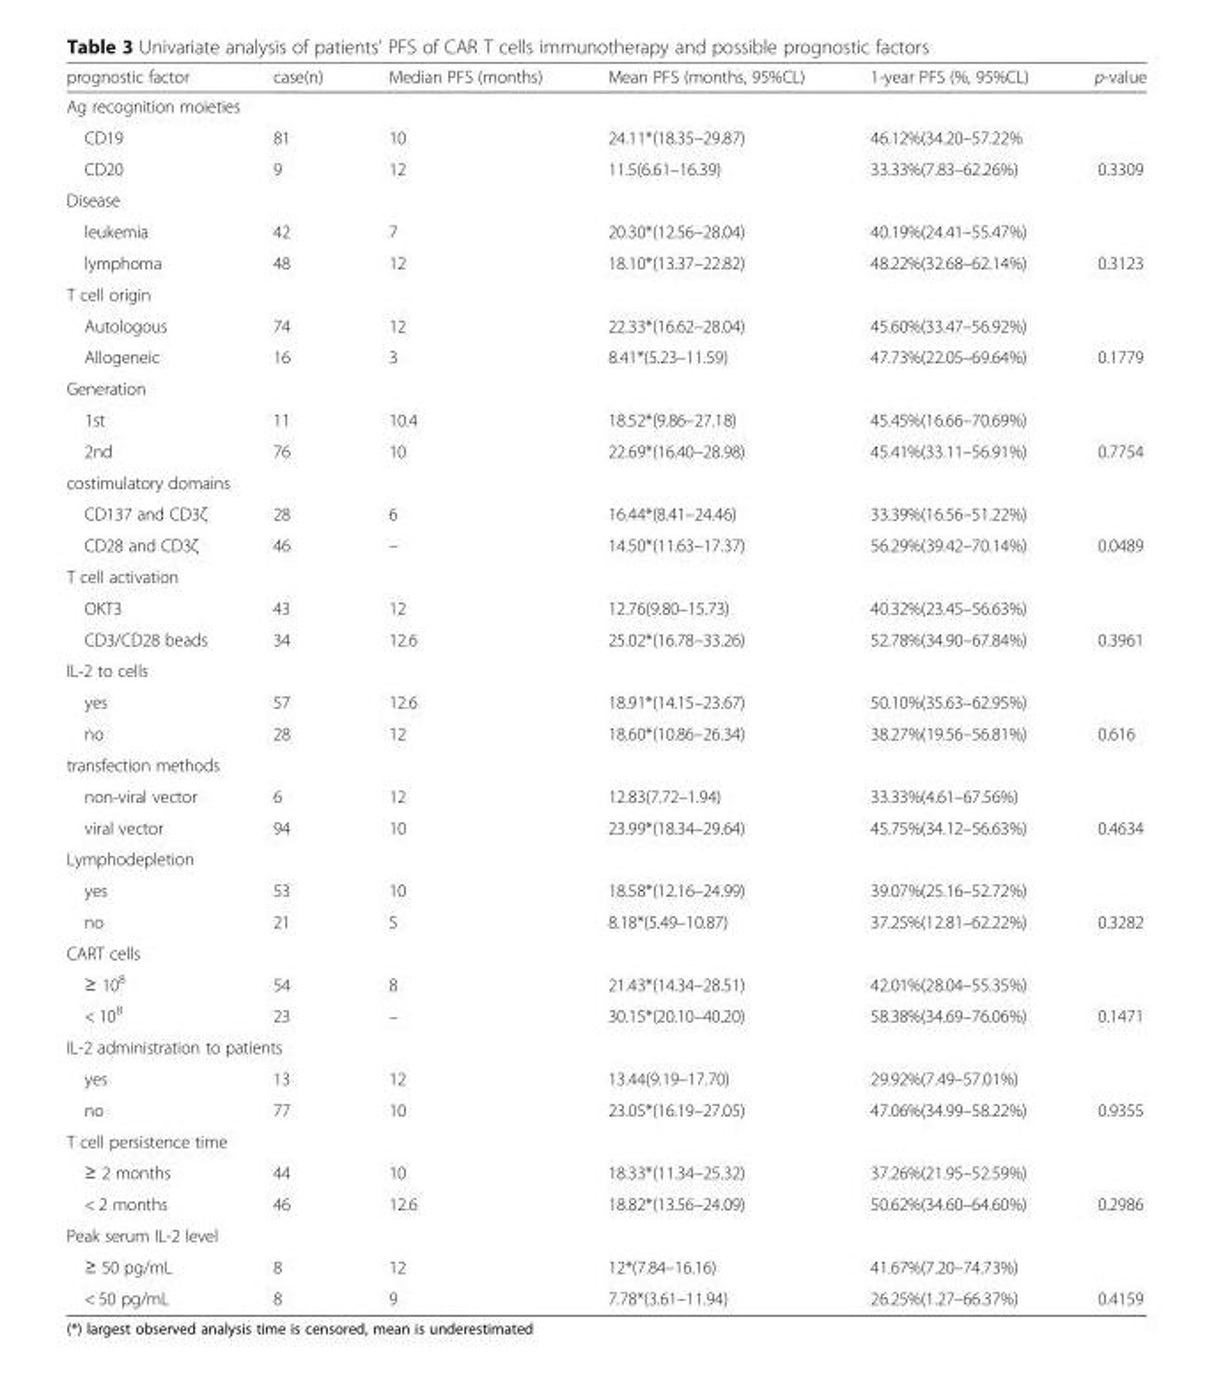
<table><thead><tr><td>prognostic factor</td><td>case(n)</td><td>Median PFS (months)</td><td>Mean PFS (months, 95%CL)</td><td>1-year PFS (%, 95%CL)</td><td>p-value</td></tr></thead><tbody><tr><td colspan="6">Ag recognition moieties</td></tr><tr><td>CD19</td><td>81</td><td>10</td><td>24.11*(18.35–29.87)</td><td>46.12%(34.20–57.22%</td><td></td></tr><tr><td>CD20</td><td>9</td><td>12</td><td>11.5(6.61–16.39)</td><td>33.33%(7.83–62.26%)</td><td>0.3309</td></tr><tr><td colspan="6">Disease</td></tr><tr><td>leukemia</td><td>42</td><td>7</td><td>20.30*(12.56–28.04)</td><td>40.19%(24.41–55.47%)</td><td></td></tr><tr><td>lymphoma</td><td>48</td><td>12</td><td>18.10*(13.37–22.82)</td><td>48.22%(32.68–62.14%)</td><td>0.3123</td></tr><tr><td colspan="6">T cell origin</td></tr><tr><td>Autologous</td><td>74</td><td>12</td><td>22.33*(16.62–28.04)</td><td>45.60%(33.47–56.92%)</td><td></td></tr><tr><td>Allogeneic</td><td>16</td><td>3</td><td>8.41*(5.23–11.59)</td><td>47.73%(22.05–69.64%)</td><td>0.1779</td></tr><tr><td colspan="6">Generation</td></tr><tr><td>1st</td><td>11</td><td>10.4</td><td>18.52*(9.86–27.18)</td><td>45.45%(16.66–70.69%)</td><td></td></tr><tr><td>2nd</td><td>76</td><td>10</td><td>22.69*(16.40–28.98)</td><td>45.41%(33.11–56.91%)</td><td>0.7754</td></tr><tr><td colspan="6">costimulatory domains</td></tr><tr><td>CD137 and CD3ζ</td><td>28</td><td>6</td><td>16.44*(8.41–24.46)</td><td>33.39%(16.56–51.22%)</td><td></td></tr><tr><td>CD28 and CD3ζ</td><td>46</td><td>–</td><td>14.50*(11.63–17.37)</td><td>56.29%(39.42–70.14%)</td><td>0.0489</td></tr><tr><td colspan="6">T cell activation</td></tr><tr><td>OKT3</td><td>43</td><td>12</td><td>12.76(9.80–15.73)</td><td>40.32%(23.45–56.63%)</td><td></td></tr><tr><td>CD3/CD28 beads</td><td>34</td><td>12.6</td><td>25.02*(16.78–33.26)</td><td>52.78%(34.90–67.84%)</td><td>0.3961</td></tr><tr><td colspan="6">IL-2 to cells</td></tr><tr><td>yes</td><td>57</td><td>12.6</td><td>18.91*(14.15–23.67)</td><td>50.10%(35.63–62.95%)</td><td></td></tr><tr><td>no</td><td>28</td><td>12</td><td>18.60*(10.86–26.34)</td><td>38.27%(19.56–56.81%)</td><td>0.616</td></tr><tr><td colspan="6">transfection methods</td></tr><tr><td>non-viral vector</td><td>6</td><td>12</td><td>12.83(7.72–1.94)</td><td>33.33%(4.61–67.56%)</td><td></td></tr><tr><td>viral vector</td><td>94</td><td>10</td><td>23.99*(18.34–29.64)</td><td>45.75%(34.12–56.63%)</td><td>0.4634</td></tr><tr><td colspan="6">Lymphodepletion</td></tr><tr><td>yes</td><td>53</td><td>10</td><td>18.58*(12.16–24.99)</td><td>39.07%(25.16–52.72%)</td><td></td></tr><tr><td>no</td><td>21</td><td>5</td><td>8.18*(5.49–10.87)</td><td>37.25%(12.81–62.22%)</td><td>0.3282</td></tr><tr><td colspan="6">CART cells</td></tr><tr><td>≥ 10<sup>8</sup></td><td>54</td><td>8</td><td>21.43*(14.34–28.51)</td><td>42.01%(28.04–55.35%)</td><td></td></tr><tr><td>&lt; 10<sup>8</sup></td><td>23</td><td>–</td><td>30.15*(20.10–40.20)</td><td>58.38%(34.69–76.06%)</td><td>0.1471</td></tr><tr><td colspan="6">IL-2 administration to patients</td></tr><tr><td>yes</td><td>13</td><td>12</td><td>13.44(9.19–17.70)</td><td>29.92%(7.49–57.01%)</td><td></td></tr><tr><td>no</td><td>77</td><td>10</td><td>23.05*(16.19–27.05)</td><td>47.06%(34.99–58.22%)</td><td>0.9355</td></tr><tr><td colspan="6">T cell persistence time</td></tr><tr><td>≥ 2 months</td><td>44</td><td>10</td><td>18.33*(11.34–25.32)</td><td>37.26%(21.95–52.59%)</td><td></td></tr><tr><td>&lt; 2 months</td><td>46</td><td>12.6</td><td>18.82*(13.56–24.09)</td><td>50.62%(34.60–64.60%)</td><td>0.2986</td></tr><tr><td colspan="6">Peak serum IL-2 level</td></tr><tr><td>≥ 50 pg/mL</td><td>8</td><td>12</td><td>12*(7.84–16.16)</td><td>41.67%(7.20–74.73%)</td><td></td></tr><tr><td>&lt; 50 pg/mL</td><td>8</td><td>9</td><td>7.78*(3.61–11.94)</td><td>26.25%(1.27–66.37%)</td><td>0.4159</td></tr></tbody></table>